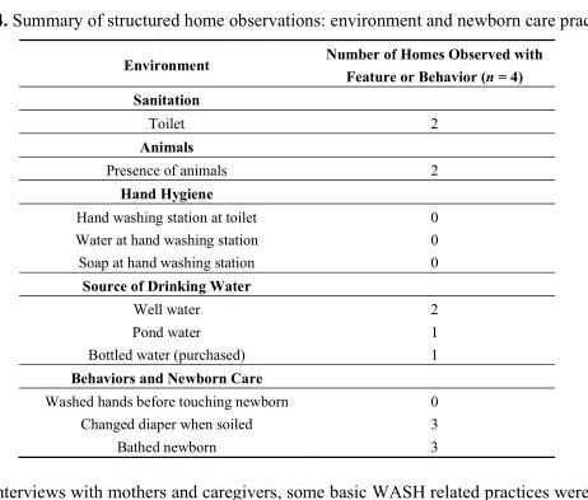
<table><thead><tr><td>Environment</td><td>Number of Homes Observed with Feature or Behavior (n = 4)</td></tr></thead><tbody><tr><td colspan="2">Sanitation</td></tr><tr><td>Toilet</td><td>2</td></tr><tr><td colspan="2">Animals</td></tr><tr><td>Presence of animals</td><td>2</td></tr><tr><td colspan="2">Hand Hygiene</td></tr><tr><td>Hand washing station at toilet</td><td>0</td></tr><tr><td>Water at hand washing station</td><td>0</td></tr><tr><td>Soap at hand washing station</td><td>0</td></tr><tr><td colspan="2">Source of Drinking Water</td></tr><tr><td>Well water</td><td>2</td></tr><tr><td>Pond water</td><td>1</td></tr><tr><td>Bottled water (purchased)</td><td>1</td></tr><tr><td colspan="2">Behaviors and Newborn Care</td></tr><tr><td>Washed hands before touching newborn</td><td>0</td></tr><tr><td>Changed diaper when soiled</td><td>3</td></tr><tr><td>Bathed newborn</td><td>3</td></tr></tbody></table>